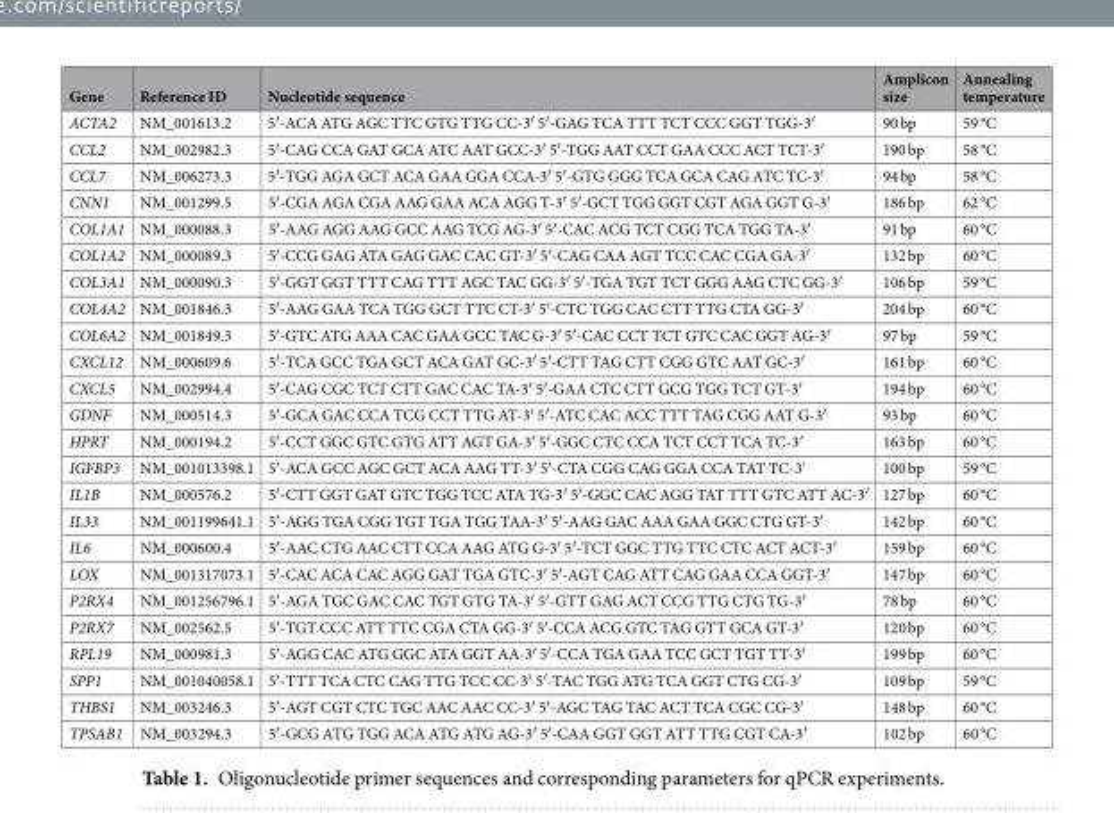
<table><thead><tr><td>Gene</td><td>Reference ID</td><td>Nucleotide sequence</td><td>Amplicon size</td><td>Annealing temperature</td></tr></thead><tbody><tr><td>ACTA2</td><td>NM_001613.2</td><td>5′-ACA ATG AGC TTC GTG TTG CC-3′ 5′-GAG TCA TTT TCT CCC GGT TGG-3′</td><td>90 bp</td><td>59 °C</td></tr><tr><td>CCL2</td><td>NM_002982.3</td><td>5′-CAG CCA GAT GCA ATC AAT GCC-3′ 5′-TGG AAT CCT GAA CCC ACT TCT-3′</td><td>190 bp</td><td>58 °C</td></tr><tr><td>CCL7</td><td>NM_006273.3</td><td>5′-TGG AGA GCT ACA GAA GGA CCA-3′ 5′-GTG GGG TCA GCA CAG ATC TC-3′</td><td>94 bp</td><td>58 °C</td></tr><tr><td>CNN1</td><td>NM_001299.5</td><td>5′-CGA AGA CGA AAG GAA ACA AGG T-3′ 5′-GCT TGG GGT CGT AGA GGT G-3′</td><td>186 bp</td><td>62 °C</td></tr><tr><td>COL1A1</td><td>NM_000088.3</td><td>5′-AAG AGG AAG GCC AAG TCG AG-3′ 5′-CAC ACG TCT CGG TCA TGG TA-3′</td><td>91 bp</td><td>60 °C</td></tr><tr><td>COL1A2</td><td>NM_000089.3</td><td>5′-CCG GAG ATA GAG GAC CAC GT-3′ 5′-CAG CAA AGT TCC CAC CGA GA-3′</td><td>132 bp</td><td>60 °C</td></tr><tr><td>COL3A1</td><td>NM_000090.3</td><td>5′-GGT GGT TTT CAG TTT AGC TAC GG-3′ 5′-TGA TGT TCT GGG AAG CTC GG-3′</td><td>106 bp</td><td>59 °C</td></tr><tr><td>COL4A2</td><td>NM_001846.3</td><td>5′-AAG GAA TCA TGG GCT TTC CT-3′ 5′-CTC TGG CAC CTT TTG CTA GG-3′</td><td>204 bp</td><td>60 °C</td></tr><tr><td>COL6A2</td><td>NM_001849.3</td><td>5′-GTC ATG AAA CAC GAA GCC TAC G-3′ 5′-CAC CCT TCT GTC CAC GGT AG-3′</td><td>97 bp</td><td>59 °C</td></tr><tr><td>CXCL12</td><td>NM_000609.6</td><td>5′-TCA GCC TGA GCT ACA GAT GC-3′ 5′-CTT TAG CTT CGG GTC AAT GC-3′</td><td>161 bp</td><td>60 °C</td></tr><tr><td>CXCL5</td><td>NM_002994.4</td><td>5′-CAG CGC TCT CTT GAC CAC TA-3′ 5′-GAA CTC CTT GCG TGG TCT GT-3′</td><td>194 bp</td><td>60 °C</td></tr><tr><td>GDNF</td><td>NM_000514.3</td><td>5′-GCA GAC CCA TCG CCT TTG AT-3′ 5′-ATC CAC ACC TTT TAG CGG AAT G-3′</td><td>93 bp</td><td>60 °C</td></tr><tr><td>HPRT</td><td>NM_000194.2</td><td>5′-CCT GGC GTC GTG ATT AGT GA-3′ 5′-GGC CTC CCA TCT CCT TCA TC-3′</td><td>163 bp</td><td>60 °C</td></tr><tr><td>IGFBP3</td><td>NM_001013398.1</td><td>5′-ACA GCC AGC GCT ACA AAG TT-3′ 5′-CTA CGG CAG GGA CCA TAT TC-3&#x27;</td><td>100 bp</td><td>59 °C</td></tr><tr><td>IL1B</td><td>NM_000576.2</td><td>5′-CTT GGT GAT GTC TGG TCC ATA TG-3′ 5′-GGC CAC AGG TAT TTT GTC ATT AC-3′</td><td>127 bp</td><td>60 °C</td></tr><tr><td>IL33</td><td>NM_001199641.1</td><td>5′-AGG TGA CGG TGT TGA TGG TAA-3′ 5′-AAG GAC AAA GAA GGC CTG GT-3′</td><td>142 bp</td><td>60 °C</td></tr><tr><td>IL6</td><td>NM_000600.4</td><td>5′-AAC CTG AAC CTT CCA AAG ATG G-3′ 5′-TCT GGC TTG TTC CTC ACT ACT-3′</td><td>159 bp</td><td>60 °C</td></tr><tr><td>LOX</td><td>NM_001317073.1</td><td>5′-CAC ACA CAC AGG GAT TGA GTC-3′ 5′-AGT CAG ATT CAG GAA CCA GGT-3′</td><td>147 bp</td><td>60 °C</td></tr><tr><td>P2RX4</td><td>NM_001256796.1</td><td>5′-AGA TGC GAC CAC TGT GTG TA-3′ 5′-GTT GAG ACT CCG TTG CTG TG-3′</td><td>78 bp</td><td>60 °C</td></tr><tr><td>P2RX7</td><td>NM_002562.5</td><td>5′-TGT CCC ATT TTC CGA CTA GG-3′ 5′-CCA ACG GTC TAG GTT GCA GT-3′</td><td>120 bp</td><td>60 °C</td></tr><tr><td>RPL19</td><td>NM_000981.3</td><td>5′-AGG CAC ATG GGC ATA GGT AA-3′ 5′-CCA TGA GAA TCC GCT TGT TT-3′</td><td>199 bp</td><td>60 °C</td></tr><tr><td>SPP1</td><td>NM_001040058.1</td><td>5′-TTT TCA CTC CAG TTG TCC CC-3′ 5′-TAC TGG ATG TCA GGT CTG CG-3′</td><td>109 bp</td><td>59 °C</td></tr><tr><td>THBS1</td><td>NM_003246.3</td><td>5′-AGT CGT CTC TGC AAC AAC CC-3′ 5′-AGC TAG TAC ACT TCA CGC CG-3′</td><td>148 bp</td><td>60 °C</td></tr><tr><td>TPSAB1</td><td>NM_003294.3</td><td>5′-GCG ATG TGG ACA ATG ATG AG-3′ 5′-CAA GGT GGT ATT TTG CGT CA-3′</td><td>102 bp</td><td>60 °C</td></tr></tbody></table>